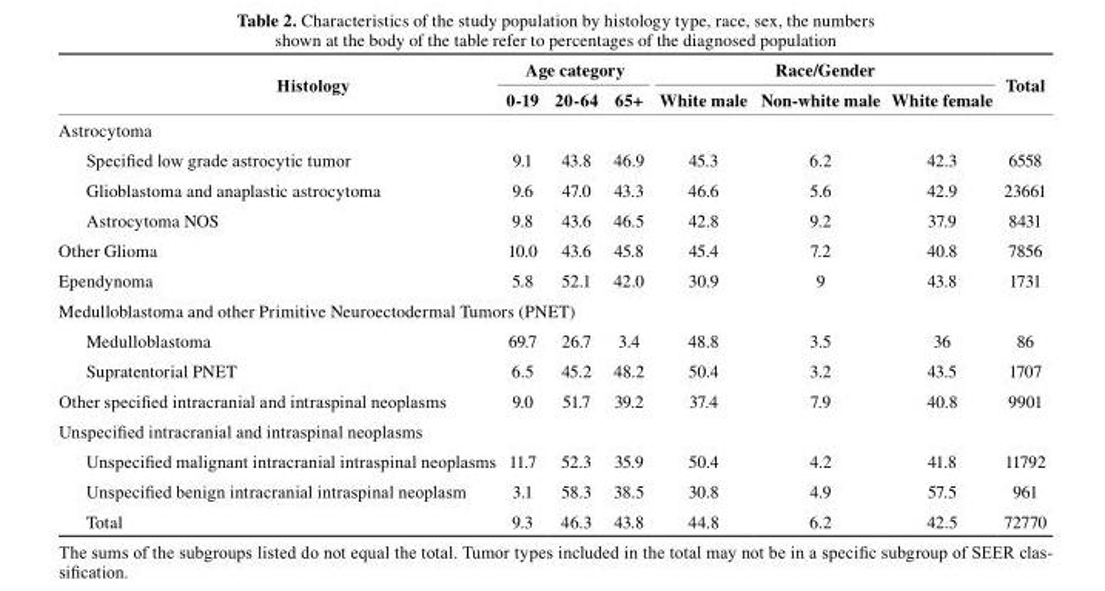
<table><thead><tr><td rowspan="2">Histology</td><td colspan="3">Age category</td><td colspan="3">race/Gender</td><td rowspan="2">total</td></tr><tr><td>0-19</td><td>20-64</td><td>65+</td><td>White male</td><td>Non-white male</td><td>White female</td></tr></thead><tbody><tr><td colspan="8">Astrocytoma</td></tr><tr><td>Specified low grade astrocytic tumor</td><td>9.1</td><td>43.8</td><td>46.9</td><td>45.3</td><td>6.2</td><td>42.3</td><td>6558</td></tr><tr><td>Glioblastoma and anaplastic astrocytoma</td><td>9.6</td><td>47.0</td><td>43.3</td><td>46.6</td><td>5.6</td><td>42.9</td><td>23661</td></tr><tr><td>Astrocytoma NOS</td><td>9.8</td><td>43.6</td><td>46.5</td><td>42.8</td><td>9.2</td><td>37.9</td><td>8431</td></tr><tr><td>Other Glioma</td><td>10.0</td><td>43.6</td><td>45.8</td><td>45.4</td><td>7.2</td><td>40.8</td><td>7856</td></tr><tr><td>Ependynoma</td><td>5.8</td><td>52.1</td><td>42.0</td><td>30.9</td><td>9</td><td>43.8</td><td>1731</td></tr><tr><td colspan="8">Medulloblastoma and other Primitive Neuroectodermal Tumors (PNET)</td></tr><tr><td>Medulloblastoma</td><td>69.7</td><td>26.7</td><td>3.4</td><td>48.8</td><td>3.5</td><td>36</td><td>86</td></tr><tr><td>Supratentorial PNET</td><td>6.5</td><td>45.2</td><td>48.2</td><td>50.4</td><td>3.2</td><td>43.5</td><td>1707</td></tr><tr><td>Other specified intracranial and intraspinal neoplasms</td><td>9.0</td><td>51.7</td><td>39.2</td><td>37.4</td><td>7.9</td><td>40.8</td><td>9901</td></tr><tr><td colspan="8">Unspecified intracranial and intraspinal neoplasms</td></tr><tr><td>Unspecified malignant intracranial intraspinal neoplasms</td><td>11.7</td><td>52.3</td><td>35.9</td><td>50.4</td><td>4.2</td><td>41.8</td><td>11792</td></tr><tr><td>Unspecified benign intracranial intraspinal neoplasm</td><td>3.1</td><td>58.3</td><td>38.5</td><td>30.8</td><td>4.9</td><td>57.5</td><td>961</td></tr><tr><td>Total</td><td>9.3</td><td>46.3</td><td>43.8</td><td>44.8</td><td>6.2</td><td>42.5</td><td>72770</td></tr></tbody></table>